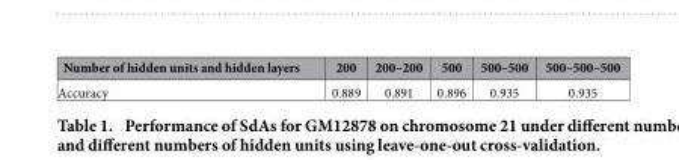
<table><thead><tr><td>Number of hidden units and hidden layers</td><td>200</td><td>200–200</td><td>500</td><td>500–500</td><td>500–500–500</td></tr></thead><tbody><tr><td>Accuracy</td><td>0.889</td><td>0.891</td><td>0.896</td><td>0.935</td><td>0.935</td></tr></tbody></table>